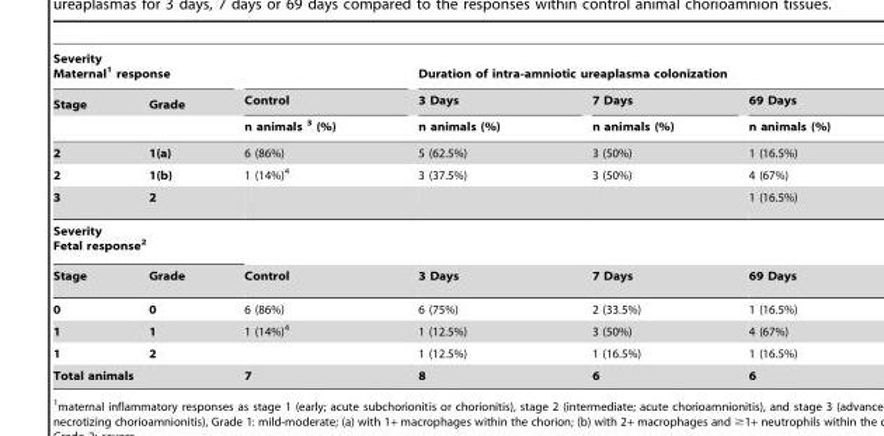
<table><thead><tr><td colspan="2">Severity Maternal<sup>1</sup> response</td><td rowspan="3">Control n animals 3 (%)</td><td colspan="3">Duration of intra-amniotic ureaplasma colonization</td></tr><tr><td rowspan="2">Stage</td><td rowspan="2">Grade</td><td rowspan="2">3 Days n animals (%)</td><td rowspan="2">7 Days n animals (%)</td><td rowspan="2">69 Days n animals (%)</td></tr><tr></tr></thead><tbody><tr><td>2</td><td>1(a)</td><td>6 (86%)</td><td>5 (62.5%)</td><td>3 (50%)</td><td>1 (16.5%)</td></tr><tr><td>2</td><td>1(b)</td><td>1 (14%)<sup>4</sup></td><td>3 (37.5%)</td><td>3 (50%)</td><td>4 (67%)</td></tr><tr><td>3</td><td>2</td><td></td><td></td><td></td><td>1 (16.5%)</td></tr><tr><td colspan="6">Severity Fetal response2</td></tr><tr><td>Stage</td><td>Grade</td><td>Control</td><td>3 Days</td><td>7 Days</td><td>69 Days</td></tr><tr><td>0</td><td>0</td><td>6 (86%)</td><td>6 (75%)</td><td>2 (33.5%)</td><td>1 (16.5%)</td></tr><tr><td>1</td><td>1</td><td>1 (14%)<sup>4</sup></td><td>1 (12.5%)</td><td>3 (50%)</td><td>4 (67%)</td></tr><tr><td>1</td><td>2</td><td></td><td>1 (12.5%)</td><td>1 (16.5%)</td><td>1 (16.5%)</td></tr><tr><td colspan="2">Total animals</td><td>7</td><td>8</td><td>6</td><td>6</td></tr></tbody></table>